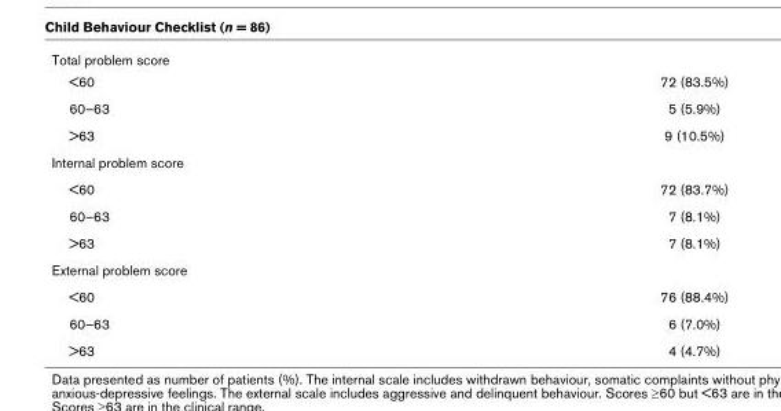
<table><tbody><tr><td colspan="2">Total problem score</td></tr><tr><td>&lt;60</td><td>72 (83.5%)</td></tr><tr><td>60–63</td><td>5 (5.9%)</td></tr><tr><td>&gt;63</td><td>9 (10.5%)</td></tr><tr><td colspan="2">Internal problem score</td></tr><tr><td>&lt;60</td><td>72 (83.7%)</td></tr><tr><td>60–63</td><td>7 (8.1%)</td></tr><tr><td>&gt;63</td><td>7 (8.1%)</td></tr><tr><td colspan="2">External problem score</td></tr><tr><td>&lt;60</td><td>76 (88.4%)</td></tr><tr><td>60–63</td><td>6 (7.0%)</td></tr><tr><td>&gt;63</td><td>4 (4.7%)</td></tr></tbody></table>